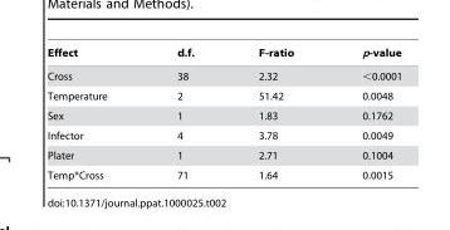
<table><thead><tr><td>Effect</td><td>d.f.</td><td>F-ratio</td><td>p-value</td></tr></thead><tbody><tr><td>Cross</td><td>38</td><td>2.32</td><td>&lt;0.0001</td></tr><tr><td>Temperature</td><td>2</td><td>51.42</td><td>0.0048</td></tr><tr><td>Sex</td><td>1</td><td>1.83</td><td>0.1762</td></tr><tr><td>Infector</td><td>4</td><td>3.78</td><td>0.0049</td></tr><tr><td>Plater</td><td>1</td><td>2.71</td><td>0.1004</td></tr><tr><td>Temp*Cross</td><td>71</td><td>1.64</td><td>0.0015</td></tr></tbody></table>